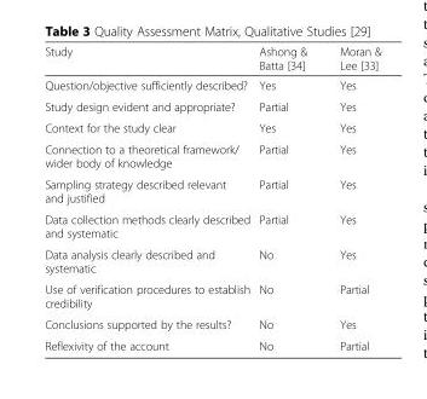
<table><thead><tr><td>Study</td><td>Ashong &amp; Batta [34]</td><td>Moran &amp; Lee [33]</td></tr></thead><tbody><tr><td>Question/objective sufficiently described?</td><td>Yes</td><td>Yes</td></tr><tr><td>Study design evident and appropriate?</td><td>Partial</td><td>Yes</td></tr><tr><td>Context for the study clear</td><td>Yes</td><td>Yes</td></tr><tr><td>Connection to a theoretical framework/ wider body of knowledge</td><td>Partial</td><td>Yes</td></tr><tr><td>Sampling strategy described relevant and justified</td><td>Partial</td><td>Yes</td></tr><tr><td>Data collection methods clearly described and systematic</td><td>Partial</td><td>Yes</td></tr><tr><td>Data analysis clearly described and systematic</td><td>No</td><td>Yes</td></tr><tr><td>Use of verification procedures to establish credibility</td><td>No</td><td>Partial</td></tr><tr><td>Conclusions supported by the results?</td><td>No</td><td>Yes</td></tr><tr><td>Reflexivity of the account</td><td>No</td><td>Partial</td></tr></tbody></table>